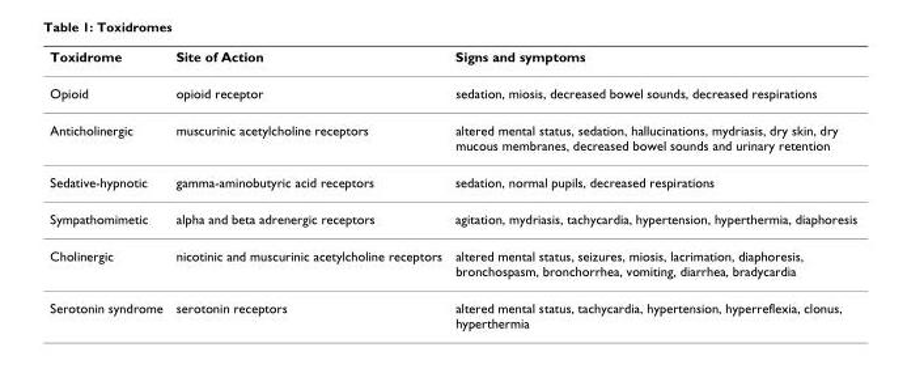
<table><thead><tr><td>Toxidrome</td><td>Site of Action</td><td>Signs and symptoms</td></tr></thead><tbody><tr><td>Opioid</td><td>opioid receptor</td><td>sedation, miosis, decreased bowel sounds, decreased respirations</td></tr><tr><td>Anticholinergic</td><td>muscurinic acetylcholine receptors</td><td>altered mental status, sedation, hallucinations, mydriasis, dry skin, dry mucous membranes, decreased bowel sounds and urinary retention</td></tr><tr><td>Sedative-hypnotic</td><td>gamma-aminobutyric acid receptors</td><td>sedation, normal pupils, decreased respirations</td></tr><tr><td>Sympathomimetic</td><td>alpha and beta adrenergic receptors</td><td>agitation, mydriasis, tachycardia, hypertension, hyperthermia, diaphoresis</td></tr><tr><td>Cholinergic</td><td>nicotinic and muscurinic acetylcholine receptors</td><td>altered mental status, seizures, miosis, lacrimation, diaphoresis, bronchospasm, bronchorrhea, vomiting, diarrhea, bradycardia</td></tr><tr><td>Serotonin syndrome</td><td>serotonin receptors</td><td>altered mental status, tachycardia, hypertension, hyperreflexia, clonus, hyperthermia</td></tr></tbody></table>